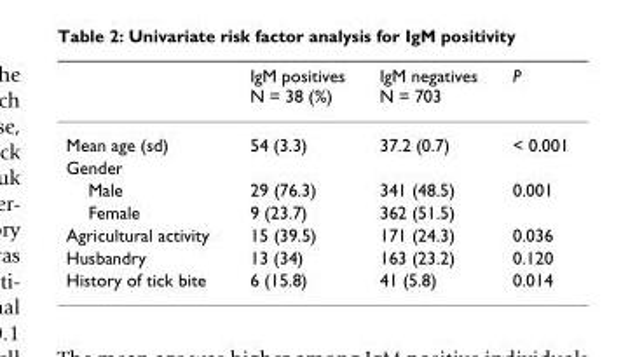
<table><thead><tr><td></td><td>IgM positives N = 38 (%)</td><td>IgM negatives N = 703</td><td>P</td></tr></thead><tbody><tr><td>Mean age (sd)</td><td>54 (3.3)</td><td>37.2 (0.7)</td><td>&lt; 0.001</td></tr><tr><td colspan="4">Gender</td></tr><tr><td>Male</td><td>29 (76.3)</td><td>341 (48.5)</td><td>0.001</td></tr><tr><td>Female</td><td>9 (23.7)</td><td>362 (51.5)</td><td></td></tr><tr><td>Agricultural activity</td><td>15 (39.5)</td><td>171 (24.3)</td><td>0.036</td></tr><tr><td>Husbandry</td><td>13 (34)</td><td>163 (23.2)</td><td>0.120</td></tr><tr><td>History of tick bite</td><td>6 (15.8)</td><td>41 (5.8)</td><td>0.014</td></tr></tbody></table>